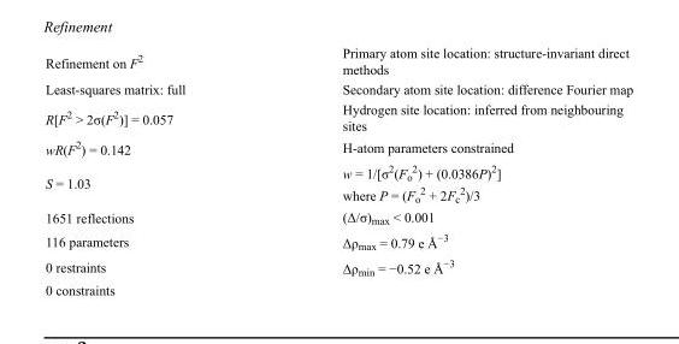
<table><tbody><tr><td>Refinement on F<sup>2</sup></td><td>Primary atom site location: structure-invariant direct methods</td></tr><tr><td>Least-squares matrix: full</td><td>Secondary atom site location: difference Fourier map</td></tr><tr><td>R[F<sup>2</sup> &gt; 2σ(F<sup>2</sup>)] = 0.057</td><td>Hydrogen site location: inferred from neighbouring sites</td></tr><tr><td>wR(F<sup>2</sup>) = 0.142</td><td>H-atom parameters constrained</td></tr><tr><td>S = 1.03</td><td>w = 1/[σ<sup>2</sup>(F<sub>o</sub> <sup>2</sup>) + (0.0386P)<sup>2</sup>] where P = (F<sub>o</sub> <sup>2</sup> + 2F<sub>c</sub> <sup>2</sup>)/3</td></tr><tr><td>1651 reflections</td><td>(Δ/σ)<sub>max</sub> &lt; 0.001</td></tr><tr><td>116 parameters</td><td>Δρ<sub>max</sub> = 0.79 e Å<sup>−3</sup></td></tr><tr><td>0 restraints</td><td>Δρ<sub>min</sub> = −0.52 e Å<sup>−3</sup></td></tr><tr><td>0 constraints</td><td></td></tr></tbody></table>